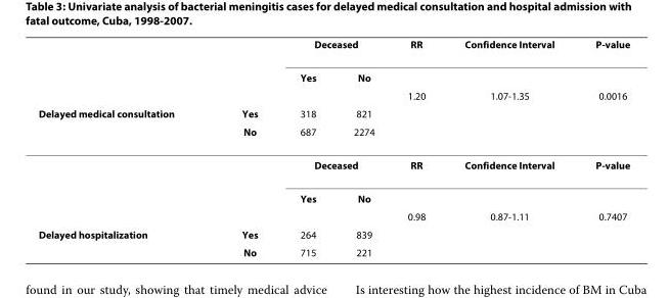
<table><thead><tr><td rowspan="5">Delayed medical consultation</td><td rowspan="5">Yes No</td><td colspan="2">Deceased</td><td rowspan="5">RR 1.20</td><td rowspan="5">Confidence Interval 1.07-1.35</td><td rowspan="5">P-value 0.0016</td></tr><tr><td rowspan="4">Yes 318 687</td><td rowspan="4">No 821 2274</td></tr><tr></tr><tr></tr><tr></tr></thead><tbody><tr><td></td><td></td><td colspan="2">Deceased</td><td>RR</td><td>Confidence Interval</td><td>P-value</td></tr><tr><td></td><td></td><td>Yes</td><td>No</td><td></td><td></td><td></td></tr><tr><td></td><td></td><td></td><td></td><td>0.98</td><td>0.87-1.11</td><td>0.7407</td></tr><tr><td rowspan="2">Delayed hospitalization</td><td>Yes</td><td>264</td><td>839</td><td></td><td></td><td></td></tr><tr><td>No</td><td>715</td><td>221</td><td></td><td></td><td></td></tr></tbody></table>